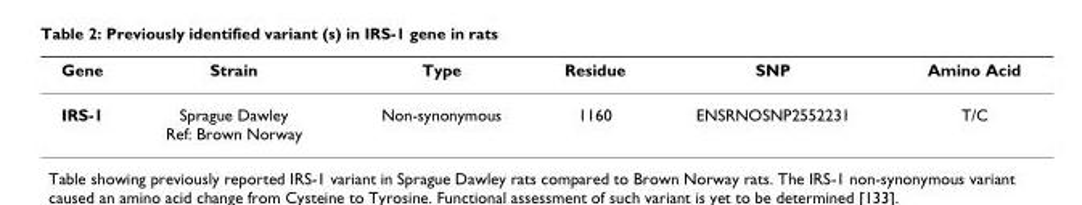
<table><thead><tr><td>Gene</td><td>Strain</td><td>Type</td><td>Residue</td><td>SNP</td><td>Amino Acid</td></tr></thead><tbody><tr><td>IRS-1</td><td>Sprague Dawley Ref: Brown Norway</td><td>Non-synonymous</td><td>1160</td><td>ENSRNOSNP2552231</td><td>T/C</td></tr></tbody></table>